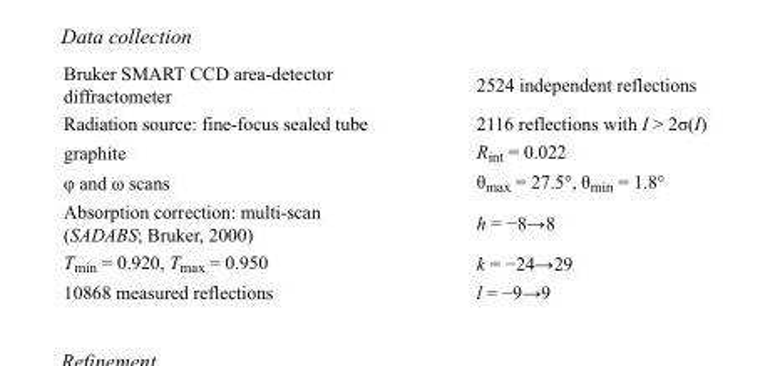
<table><tbody><tr><td>Bruker SMART CCD area-detector diffractometer</td><td>2524 independent reflections</td></tr><tr><td>Radiation source: fine-focus sealed tube</td><td>2116 reflections with I &gt; 2σ(I)</td></tr><tr><td>graphite</td><td>R<sub>int</sub> = 0.022</td></tr><tr><td>φ and ω scans</td><td>θ<sub>max</sub> = 27.5°, θ<sub>min</sub> = 1.8°</td></tr><tr><td>Absorption correction: multi-scan (SADABS; Bruker, 2000)</td><td>h = −8→8</td></tr><tr><td>T<sub>min</sub> = 0.920, T<sub>max</sub> = 0.950</td><td>k = −24→29</td></tr><tr><td>10868 measured reflections</td><td>l = −9→9</td></tr></tbody></table>